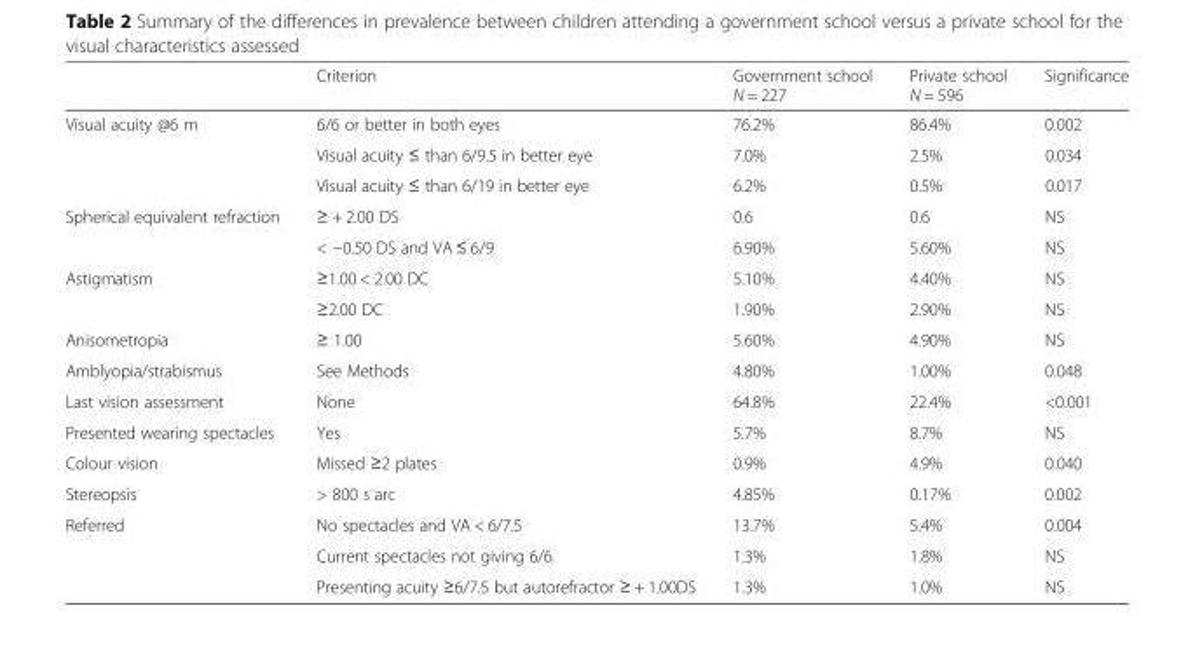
<table><thead><tr><td></td><td>Criterion</td><td>Government school N = 227</td><td>Private school N = 596</td><td>Significance</td></tr></thead><tbody><tr><td rowspan="3">Visual acuity @6 m</td><td>6/6 or better in both eyes</td><td>76.2%</td><td>86.4%</td><td>0.002</td></tr><tr><td>Visual acuity ≤ than 6/9.5 in better eye</td><td>7.0%</td><td>2.5%</td><td>0.034</td></tr><tr><td>Visual acuity ≤ than 6/19 in better eye</td><td>6.2%</td><td>0.5%</td><td>0.017</td></tr><tr><td rowspan="2">Spherical equivalent refraction</td><td>≥ + 2.00 DS</td><td>0.6</td><td>0.6</td><td>NS</td></tr><tr><td>&lt; −0.50 DS and VA ≤ 6/9</td><td>6.90%</td><td>5.60%</td><td>NS</td></tr><tr><td rowspan="2">Astigmatism</td><td>≥1.00 &lt; 2.00 DC</td><td>5.10%</td><td>4.40%</td><td>NS</td></tr><tr><td>≥2.00 DC</td><td>1.90%</td><td>2.90%</td><td>NS</td></tr><tr><td>Anisometropia</td><td>≥ 1.00</td><td>5.60%</td><td>4.90%</td><td>NS</td></tr><tr><td>Amblyopia/strabismus</td><td>See Methods</td><td>4.80%</td><td>1.00%</td><td>0.048</td></tr><tr><td>Last vision assessment</td><td>None</td><td>64.8%</td><td>22.4%</td><td>&lt;0.001</td></tr><tr><td>Presented wearing spectacles</td><td>Yes</td><td>5.7%</td><td>8.7%</td><td>NS</td></tr><tr><td>Colour vision</td><td>Missed ≥2 plates</td><td>0.9%</td><td>4.9%</td><td>0.040</td></tr><tr><td>Stereopsis</td><td>&gt; 800 s arc</td><td>4.85%</td><td>0.17%</td><td>0.002</td></tr><tr><td rowspan="3">Referred</td><td>No spectacles and VA &lt; 6/7.5</td><td>13.7%</td><td>5.4%</td><td>0.004</td></tr><tr><td>Current spectacles not giving 6/6</td><td>1.3%</td><td>1.8%</td><td>NS</td></tr><tr><td>Presenting acuity ≥6/7.5 but autorefractor ≥ + 1.00DS</td><td>1.3%</td><td>1.0%</td><td>NS</td></tr></tbody></table>